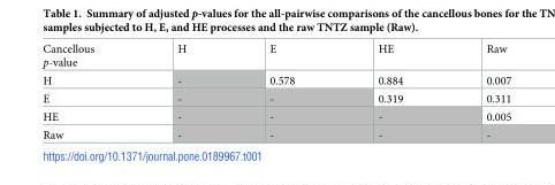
<table><tbody><tr><td>Cancellous p-value</td><td>H</td><td>E</td><td>HE</td><td>Raw</td></tr><tr><td>H</td><td>-</td><td>0.578</td><td>0.884</td><td>0.007</td></tr><tr><td>E</td><td>-</td><td>-</td><td>0.319</td><td>0.311</td></tr><tr><td>HE</td><td>-</td><td>-</td><td>-</td><td>0.005</td></tr><tr><td>Raw</td><td>-</td><td>-</td><td>-</td><td>-</td></tr></tbody></table>